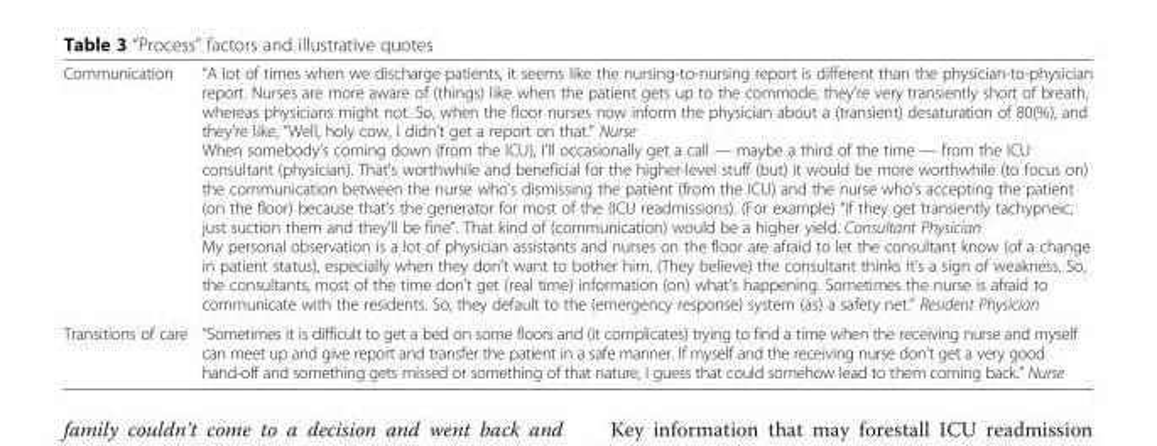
<table><tbody><tr><td>Communication</td><td>“A lot of times when we discharge patients, it seems like the nursing-to-nursing report is different than the physician-to-physician report. Nurses are more aware of (things) like when the patient gets up to the commode, they’re very transiently short of breath, whereas physicians might not. So, when the floor nurses now inform the physician about a (transient) desaturation of 80(%), and they’re like, “Well, holy cow, I didn’t get a report on that.” Nurse When somebody’s coming down (from the ICU), I’ll occasionally get a call — maybe a third of the time — from the ICU consultant (physician). That’s worthwhile and beneficial for the higher-level stuff (but) it would be more worthwhile (to focus on) the communication between the nurse who’s dismissing the patient (from the ICU) and the nurse who’s accepting the patient (on the floor) because that’s the generator for most of the (ICU readmissions). (For example) “if they get transiently tachypneic, just suction them and they’ll be fine”. That kind of (communication) would be a higher yield. Consultant Physician My personal observation is a lot of physician assistants and nurses on the floor are afraid to let the consultant know (of a change in patient status), especially when they don’t want to bother him. (They believe) the consultant thinks it’s a sign of weakness. So, the consultants, most of the time don’t get (real time) information (on) what’s happening. Sometimes the nurse is afraid to communicate with the residents. So, they default to the (emergency response) system (as) a safety net.” Resident Physician</td></tr><tr><td>Transitions of care</td><td>“Sometimes it is difficult to get a bed on some floors and (it complicates) trying to find a time when the receiving nurse and myself can meet up and give report and transfer the patient in a safe manner. If myself and the receiving nurse don’t get a very good hand-off and something gets missed or something of that nature, I guess that could somehow lead to them coming back.” Nurse</td></tr></tbody></table>